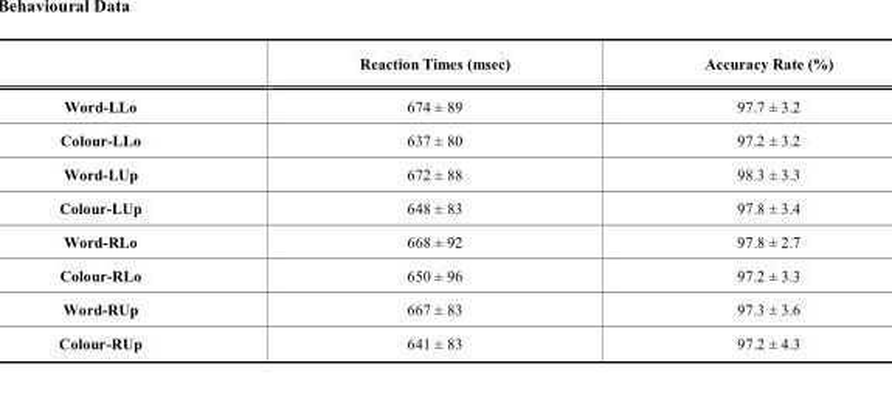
<table><thead><tr><td></td><td>Reaction Times (msec)</td><td>Accuracy Rate (%)</td></tr></thead><tbody><tr><td>Word-LLo</td><td>674 ± 89</td><td>97.7 ± 3.2</td></tr><tr><td>Colour-LLo</td><td>637 ± 80</td><td>97.2 ± 3.2</td></tr><tr><td>Word-LUp</td><td>672 ± 88</td><td>98.3 ± 3.3</td></tr><tr><td>Colour-LUp</td><td>648 ± 83</td><td>97.8 ± 3.4</td></tr><tr><td>Word-RLo</td><td>668 ± 92</td><td>97.8 ± 2.7</td></tr><tr><td>Colour-RLo</td><td>650 ± 96</td><td>97.2 ± 3.3</td></tr><tr><td>Word-RUp</td><td>667 ± 83</td><td>97.3 ± 3.6</td></tr><tr><td>Colour-RUp</td><td>641 ± 83</td><td>97.2 ± 4.3</td></tr></tbody></table>